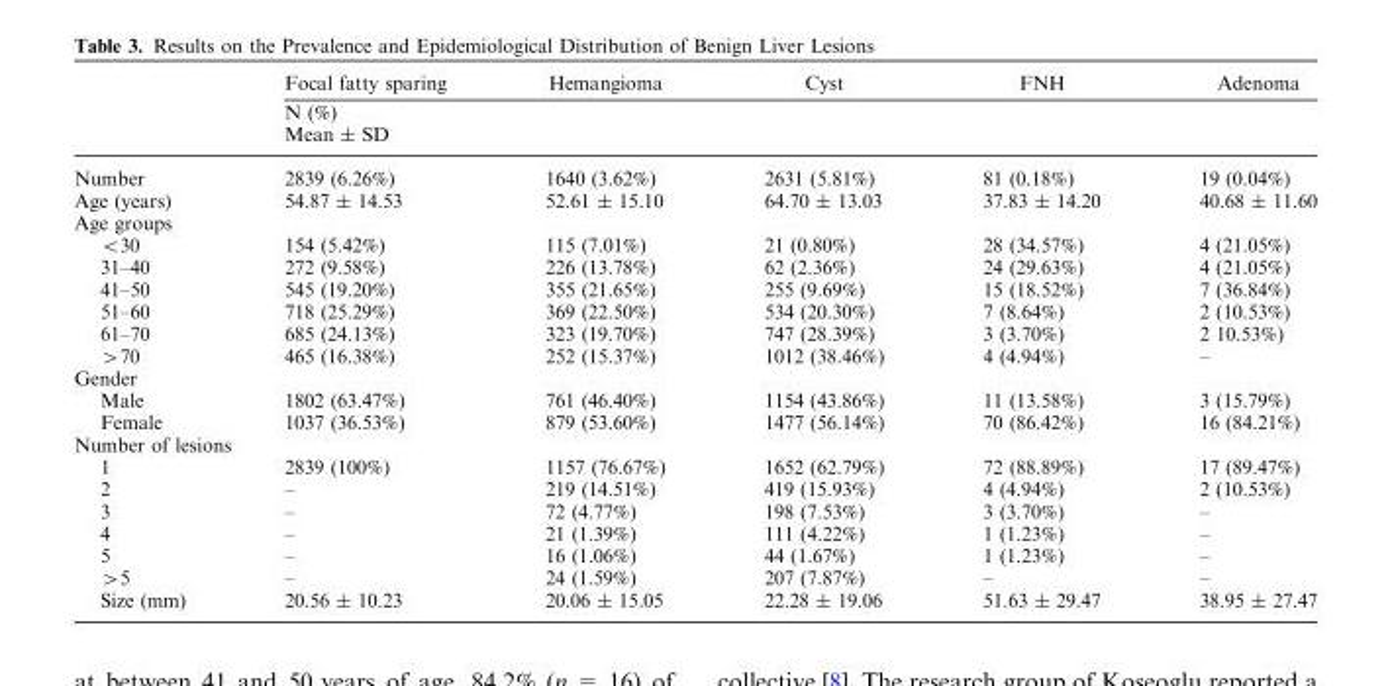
<table><thead><tr><td rowspan="2"></td><td>Focal fatty sparing</td><td>Hemangioma</td><td>Cyst</td><td>FNH</td><td>Adenoma</td></tr><tr><td colspan="5">N (%) Mean ± SD</td></tr></thead><tbody><tr><td>Number</td><td>2839 (6.26%)</td><td>1640 (3.62%)</td><td>2631 (5.81%)</td><td>81 (0.18%)</td><td>19 (0.04%)</td></tr><tr><td>Age (years)</td><td>54.87 ± 14.53</td><td>52.61 ± 15.10</td><td>64.70 ± 13.03</td><td>37.83 ± 14.20</td><td>40.68 ± 11.60</td></tr><tr><td colspan="6">Age groups</td></tr><tr><td>&lt;30</td><td>154 (5.42%)</td><td>115 (7.01%)</td><td>21 (0.80%)</td><td>28 (34.57%)</td><td>4 (21.05%)</td></tr><tr><td>31–40</td><td>272 (9.58%)</td><td>226 (13.78%)</td><td>62 (2.36%)</td><td>24 (29.63%)</td><td>4 (21.05%)</td></tr><tr><td>41–50</td><td>545 (19.20%)</td><td>355 (21.65%)</td><td>255 (9.69%)</td><td>15 (18.52%)</td><td>7 (36.84%)</td></tr><tr><td>51–60</td><td>718 (25.29%)</td><td>369 (22.50%)</td><td>534 (20.30%)</td><td>7 (8.64%)</td><td>2 (10.53%)</td></tr><tr><td>61–70</td><td>685 (24.13%)</td><td>323 (19.70%)</td><td>747 (28.39%)</td><td>3 (3.70%)</td><td>2 10.53%)</td></tr><tr><td>&gt;70</td><td>465 (16.38%)</td><td>252 (15.37%)</td><td>1012 (38.46%)</td><td>4 (4.94%)</td><td>–</td></tr><tr><td colspan="6">Gender</td></tr><tr><td>Male</td><td>1802 (63.47%)</td><td>761 (46.40%)</td><td>1154 (43.86%)</td><td>11 (13.58%)</td><td>3 (15.79%)</td></tr><tr><td>Female</td><td>1037 (36.53%)</td><td>879 (53.60%)</td><td>1477 (56.14%)</td><td>70 (86.42%)</td><td>16 (84.21%)</td></tr><tr><td colspan="6">Number of lesions</td></tr><tr><td>1</td><td>2839 (100%)</td><td>1157 (76.67%)</td><td>1652 (62.79%)</td><td>72 (88.89%)</td><td>17 (89.47%)</td></tr><tr><td>2</td><td>–</td><td>219 (14.51%)</td><td>419 (15.93%)</td><td>4 (4.94%)</td><td>2 (10.53%)</td></tr><tr><td>3</td><td>–</td><td>72 (4.77%)</td><td>198 (7.53%)</td><td>3 (3.70%)</td><td>–</td></tr><tr><td>4</td><td>–</td><td>21 (1.39%)</td><td>111 (4.22%)</td><td>1 (1.23%)</td><td>–</td></tr><tr><td>5</td><td>–</td><td>16 (1.06%)</td><td>44 (1.67%)</td><td>1 (1.23%)</td><td>–</td></tr><tr><td>&gt;5</td><td>–</td><td>24 (1.59%)</td><td>207 (7.87%)</td><td>–</td><td>–</td></tr><tr><td>Size (mm)</td><td>20.56 ± 10.23</td><td>20.06 ± 15.05</td><td>22.28 ± 19.06</td><td>51.63 ± 29.47</td><td>38.95 ± 27.47</td></tr></tbody></table>